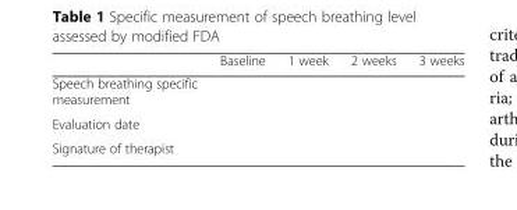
<table><thead><tr><td></td><td>Baseline</td><td>1 week</td><td>2 weeks</td><td>3 weeks</td></tr></thead><tbody><tr><td colspan="5">Speech breathing specific measurement</td></tr><tr><td colspan="5">Evaluation date</td></tr><tr><td>Signature of therapist</td><td></td><td></td><td></td><td></td></tr></tbody></table>